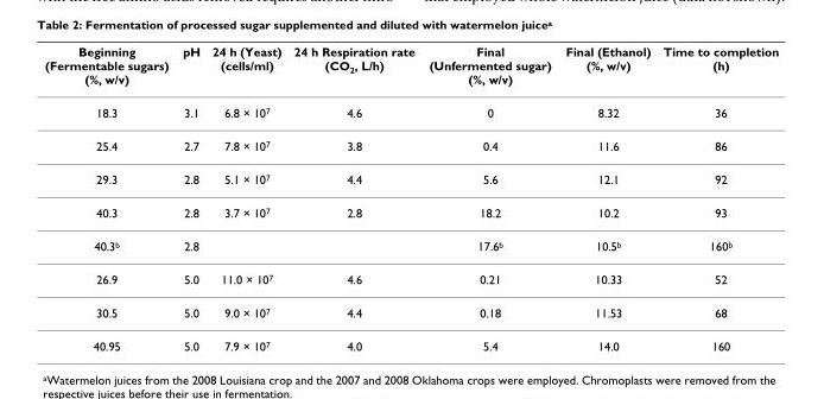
<table><thead><tr><td>Beginning (Fermentable sugars) (%, w/v)</td><td>pH</td><td>24 h (Yeast) (cells/ml)</td><td>24 h Respiration rate (CO<sub>2</sub>, L/h)</td><td>Final (Unfermented sugar) (%, w/v)</td><td>Final (Ethanol) (%, w/v)</td><td>Time to completion (h)</td></tr></thead><tbody><tr><td>18.3</td><td>3.1</td><td>6.8 × 10<sup>7</sup></td><td>4.6</td><td>0</td><td>8.32</td><td>36</td></tr><tr><td>25.4</td><td>2.7</td><td>7.8 × 10<sup>7</sup></td><td>3.8</td><td>0.4</td><td>11.6</td><td>86</td></tr><tr><td>29.3</td><td>2.8</td><td>5.1 × 10<sup>7</sup></td><td>4.4</td><td>5.6</td><td>12.1</td><td>92</td></tr><tr><td>40.3</td><td>2.8</td><td>3.7 × 10<sup>7</sup></td><td>2.8</td><td>18.2</td><td>10.2</td><td>93</td></tr><tr><td>40.3<sup>b</sup></td><td>2.8</td><td></td><td></td><td>17.6<sup>b</sup></td><td>10.5<sup>b</sup></td><td>160<sup>b</sup></td></tr><tr><td>26.9</td><td>5.0</td><td>11.0 × 10<sup>7</sup></td><td>4.6</td><td>0.21</td><td>10.33</td><td>52</td></tr><tr><td>30.5</td><td>5.0</td><td>9.0 × 10<sup>7</sup></td><td>4.4</td><td>0.18</td><td>11.53</td><td>68</td></tr><tr><td>40.95</td><td>5.0</td><td>7.9 × 10<sup>7</sup></td><td>4.0</td><td>5.4</td><td>14.0</td><td>160</td></tr></tbody></table>